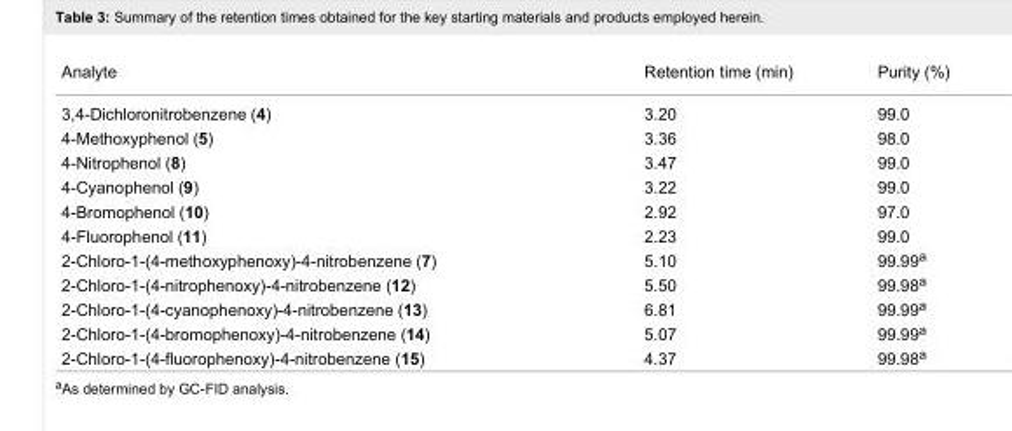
<table><tbody><tr><td>Analyte</td><td>Retention time (min)</td><td>Purity (%)</td></tr><tr><td>3,4-Dichloronitrobenzene (4)</td><td>3.20</td><td>99.0</td></tr><tr><td>4-Methoxyphenol (5)</td><td>3.36</td><td>98.0</td></tr><tr><td>4-Nitrophenol (8)</td><td>3.47</td><td>99.0</td></tr><tr><td>4-Cyanophenol (9)</td><td>3.22</td><td>99.0</td></tr><tr><td>4-Bromophenol (10)</td><td>2.92</td><td>97.0</td></tr><tr><td>4-Fluorophenol (11)</td><td>2.23</td><td>99.0</td></tr><tr><td>2-Chloro-1-(4-methoxyphenoxy)-4-nitrobenzene (7)</td><td>5.10</td><td>99.99<sup>a</sup></td></tr><tr><td>2-Chloro-1-(4-nitrophenoxy)-4-nitrobenzene (12)</td><td>5.50</td><td>99.98<sup>a</sup></td></tr><tr><td>2-Chloro-1-(4-cyanophenoxy)-4-nitrobenzene (13)</td><td>6.81</td><td>99.99<sup>a</sup></td></tr><tr><td>2-Chloro-1-(4-bromophenoxy)-4-nitrobenzene (14)</td><td>5.07</td><td>99.99<sup>a</sup></td></tr><tr><td>2-Chloro-1-(4-fluorophenoxy)-4-nitrobenzene (15)</td><td>4.37</td><td>99.98<sup>a</sup></td></tr></tbody></table>